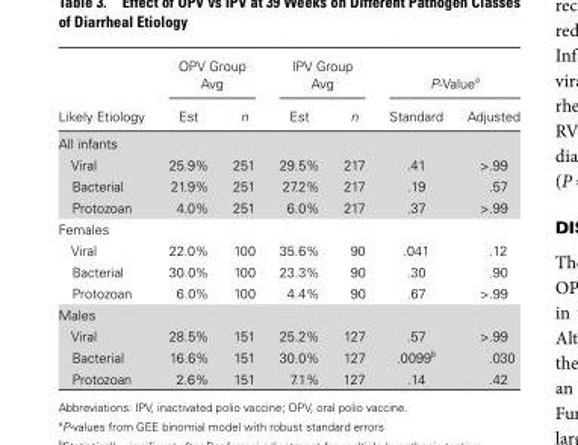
<table><thead><tr><td rowspan="2">Likely Etiology</td><td colspan="2">OPV Group Avg</td><td colspan="2">IPV Group Avg</td><td colspan="2">P-Value<sup>a</sup></td></tr><tr><td>Est</td><td>n</td><td>Est</td><td>n</td><td>Standard</td><td>Adjusted</td></tr></thead><tbody><tr><td colspan="7">All infants</td></tr><tr><td>Viral</td><td>25.9%</td><td>251</td><td>29.5%</td><td>217</td><td>.41</td><td>&gt;.99</td></tr><tr><td>Bacterial</td><td>21.9%</td><td>251</td><td>27.2%</td><td>217</td><td>.19</td><td>.57</td></tr><tr><td>Protozoan</td><td>4.0%</td><td>251</td><td>6.0%</td><td>217</td><td>.37</td><td>&gt;.99</td></tr><tr><td colspan="7">Females</td></tr><tr><td>Viral</td><td>22.0%</td><td>100</td><td>35.6%</td><td>90</td><td>.041</td><td>.12</td></tr><tr><td>Bacterial</td><td>30.0%</td><td>100</td><td>23.3%</td><td>90</td><td>.30</td><td>.90</td></tr><tr><td>Protozoan</td><td>6.0%</td><td>100</td><td>4.4%</td><td>90</td><td>.67</td><td>&gt;.99</td></tr><tr><td colspan="7">Males</td></tr><tr><td>Viral</td><td>28.5%</td><td>151</td><td>25.2%</td><td>127</td><td>.57</td><td>&gt;.99</td></tr><tr><td>Bacterial</td><td>16.6%</td><td>151</td><td>30.0%</td><td>127</td><td>.0099<sup>b</sup></td><td>.030</td></tr><tr><td>Protozoan</td><td>2.6%</td><td>151</td><td>7.1%</td><td>127</td><td>.14</td><td>.42</td></tr></tbody></table>